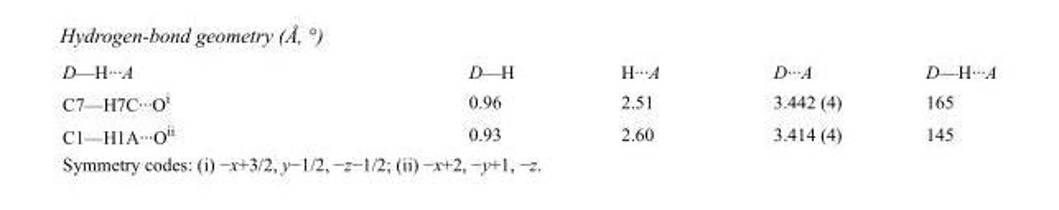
<table><tbody><tr><td>D—H···A</td><td>D—H</td><td>H···A</td><td>D···A</td><td>D—H···A</td></tr><tr><td>C7—H7C···O<sup>i</sup></td><td>0.96</td><td>2.51</td><td>3.442 (4)</td><td>165</td></tr><tr><td>C1—H1A···O<sup>ii</sup></td><td>0.93</td><td>2.60</td><td>3.414 (4)</td><td>145</td></tr></tbody></table>